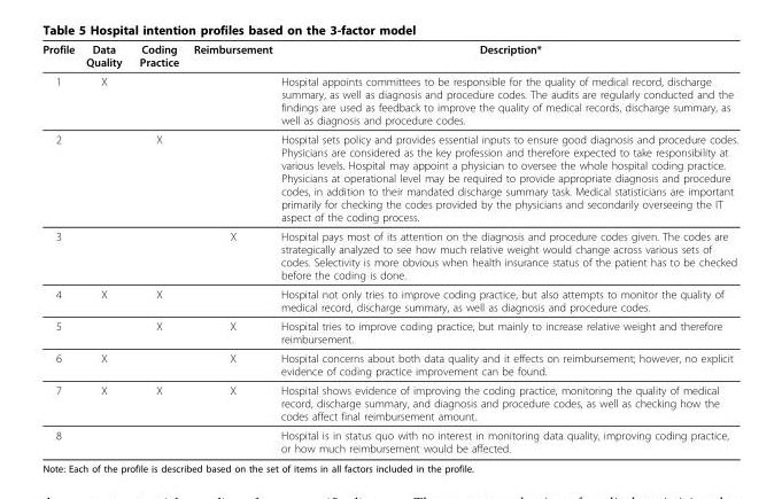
<table><thead><tr><td>Profile</td><td>Data Quality</td><td>Coding Practice</td><td>Reimbursement</td><td>Description*</td></tr></thead><tbody><tr><td>1</td><td>X</td><td></td><td></td><td>Hospital appoints committees to be responsible for the quality of medical record, discharge summary, as well as diagnosis and procedure codes. The audits are regularly conducted and the findings are used as feedback to improve the quality of medical records, discharge summary, as well as diagnosis and procedure codes.</td></tr><tr><td>2</td><td></td><td>X</td><td></td><td>Hospital sets policy and provides essential inputs to ensure good diagnosis and procedure codes. Physicians are considered as the key profession and therefore expected to take responsibility at various levels. Hospital may appoint a physician to oversee the whole hospital coding practice. Physicians at operational level may be required to provide appropriate diagnosis and procedure codes, in addition to their mandated discharge summary task. Medical statisticians are important primarily for checking the codes provided by the physicians and secondarily overseeing the IT aspect of the coding process.</td></tr><tr><td>3</td><td></td><td></td><td>X</td><td>Hospital pays most of its attention on the diagnosis and procedure codes given. The codes are strategically analyzed to see how much relative weight would change across various sets of codes. Selectivity is more obvious when health insurance status of the patient has to be checked before the coding is done.</td></tr><tr><td>4</td><td>X</td><td>X</td><td></td><td>Hospital not only tries to improve coding practice, but also attempts to monitor the quality of medical record, discharge summary, as well as diagnosis and procedure codes.</td></tr><tr><td>5</td><td></td><td>X</td><td>X</td><td>Hospital tries to improve coding practice, but mainly to increase relative weight and therefore reimbursement.</td></tr><tr><td>6</td><td>X</td><td></td><td>X</td><td>Hospital concerns about both data quality and it effects on reimbursement; however, no explicit evidence of coding practice improvement can be found.</td></tr><tr><td>7</td><td>X</td><td>X</td><td>X</td><td>Hospital shows evidence of improving the coding practice, monitoring the quality of medical record, discharge summary, and diagnosis and procedure codes, as well as checking how the codes affect final reimbursement amount.</td></tr><tr><td>8</td><td></td><td></td><td></td><td>Hospital is in status quo with no interest in monitoring data quality, improving coding practice, or how much reimbursement would be affected.</td></tr></tbody></table>